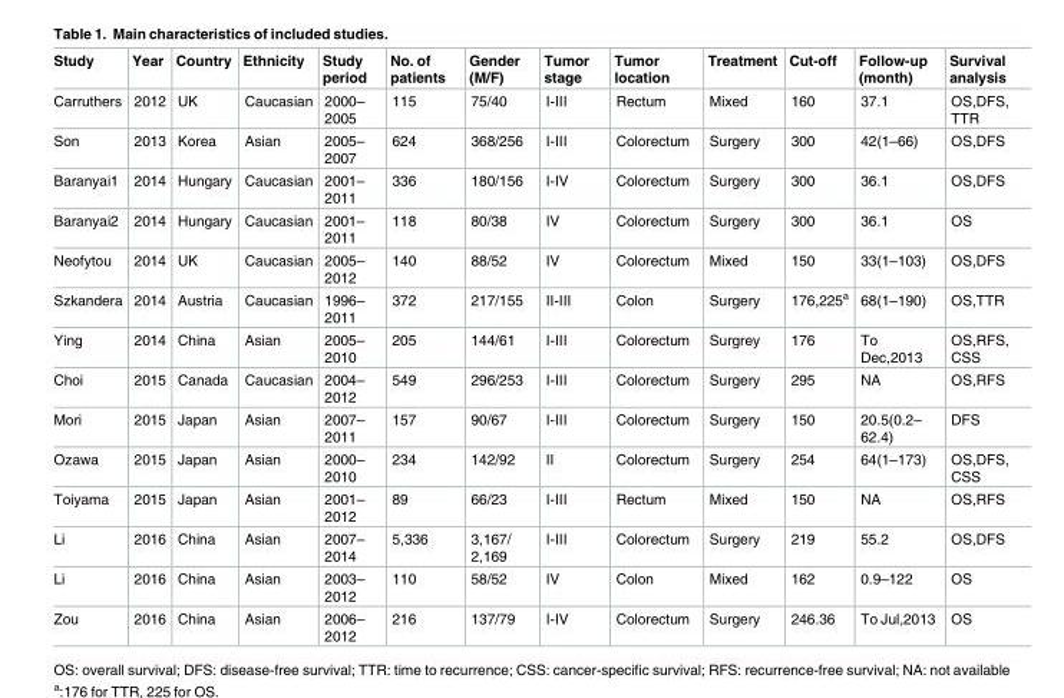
<table><thead><tr><td>Study</td><td>Year</td><td>Country</td><td>Ethnicity</td><td>Study period</td><td>No. of patients</td><td>Gender (M/F)</td><td>Tumor stage</td><td>Tumor location</td><td>Treatment</td><td>Cut-off</td><td>Follow-up (month)</td><td>Survival analysis</td></tr></thead><tbody><tr><td>Carruthers</td><td>2012</td><td>UK</td><td>Caucasian</td><td>2000– 2005</td><td>115</td><td>75/40</td><td>I-III</td><td>Rectum</td><td>Mixed</td><td>160</td><td>37.1</td><td>OS,DFS, TTR</td></tr><tr><td>Son</td><td>2013</td><td>Korea</td><td>Asian</td><td>2005– 2007</td><td>624</td><td>368/256</td><td>I-III</td><td>Colorectum</td><td>Surgery</td><td>300</td><td>42(1–66)</td><td>OS,DFS</td></tr><tr><td>Baranyai1</td><td>2014</td><td>Hungary</td><td>Caucasian</td><td>2001– 2011</td><td>336</td><td>180/156</td><td>I-IV</td><td>Colorectum</td><td>Surgery</td><td>300</td><td>36.1</td><td>OS,DFS</td></tr><tr><td>Baranyai2</td><td>2014</td><td>Hungary</td><td>Caucasian</td><td>2001– 2011</td><td>118</td><td>80/38</td><td>IV</td><td>Colorectum</td><td>Surgery</td><td>300</td><td>36.1</td><td>OS</td></tr><tr><td>Neofytou</td><td>2014</td><td>UK</td><td>Caucasian</td><td>2005– 2012</td><td>140</td><td>88/52</td><td>IV</td><td>Colorectum</td><td>Mixed</td><td>150</td><td>33(1–103)</td><td>OS,DFS</td></tr><tr><td>Szkandera</td><td>2014</td><td>Austria</td><td>Caucasian</td><td>1996– 2011</td><td>372</td><td>217/155</td><td>II-III</td><td>Colon</td><td>Surgery</td><td>176,225<sup>a</sup></td><td>68(1–190)</td><td>OS,TTR</td></tr><tr><td>Ying</td><td>2014</td><td>China</td><td>Asian</td><td>2005– 2010</td><td>205</td><td>144/61</td><td>I-III</td><td>Colorectum</td><td>Surgrey</td><td>176</td><td>To Dec,2013</td><td>OS,RFS, CSS</td></tr><tr><td>Choi</td><td>2015</td><td>Canada</td><td>Caucasian</td><td>2004– 2012</td><td>549</td><td>296/253</td><td>I-III</td><td>Colorectum</td><td>Surgery</td><td>295</td><td>NA</td><td>OS,RFS</td></tr><tr><td>Mori</td><td>2015</td><td>Japan</td><td>Asian</td><td>2007– 2011</td><td>157</td><td>90/67</td><td>I-III</td><td>Colorectum</td><td>Surgery</td><td>150</td><td>20.5(0.2– 62.4)</td><td>DFS</td></tr><tr><td>Ozawa</td><td>2015</td><td>Japan</td><td>Asian</td><td>2000– 2010</td><td>234</td><td>142/92</td><td>II</td><td>Colorectum</td><td>Surgery</td><td>254</td><td>64(1–173)</td><td>OS,DFS, CSS</td></tr><tr><td>Toiyama</td><td>2015</td><td>Japan</td><td>Asian</td><td>2001– 2012</td><td>89</td><td>66/23</td><td>I-III</td><td>Rectum</td><td>Mixed</td><td>150</td><td>NA</td><td>OS,RFS</td></tr><tr><td>Li</td><td>2016</td><td>China</td><td>Asian</td><td>2007– 2014</td><td>5,336</td><td>3,167/ 2,169</td><td>I-III</td><td>Colorectum</td><td>Surgery</td><td>219</td><td>55.2</td><td>OS,DFS</td></tr><tr><td>Li</td><td>2016</td><td>China</td><td>Asian</td><td>2003– 2012</td><td>110</td><td>58/52</td><td>IV</td><td>Colon</td><td>Mixed</td><td>162</td><td>0.9–122</td><td>OS</td></tr><tr><td>Zou</td><td>2016</td><td>China</td><td>Asian</td><td>2006– 2012</td><td>216</td><td>137/79</td><td>I-IV</td><td>Colorectum</td><td>Surgery</td><td>246.36</td><td>To Jul,2013</td><td>OS</td></tr></tbody></table>